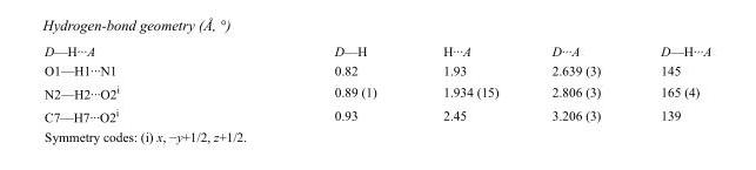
<table><tbody><tr><td>D—H···A</td><td>D—H</td><td>H···A</td><td>D···A</td><td>D—H···A</td></tr><tr><td>O1—H1···N1</td><td>0.82</td><td>1.93</td><td>2.639 (3)</td><td>145</td></tr><tr><td>N2—H2···O2<sup>i</sup></td><td>0.89 (1)</td><td>1.934 (15)</td><td>2.806 (3)</td><td>165 (4)</td></tr><tr><td>C7—H7···O2<sup>i</sup></td><td>0.93</td><td>2.45</td><td>3.206 (3)</td><td>139</td></tr></tbody></table>